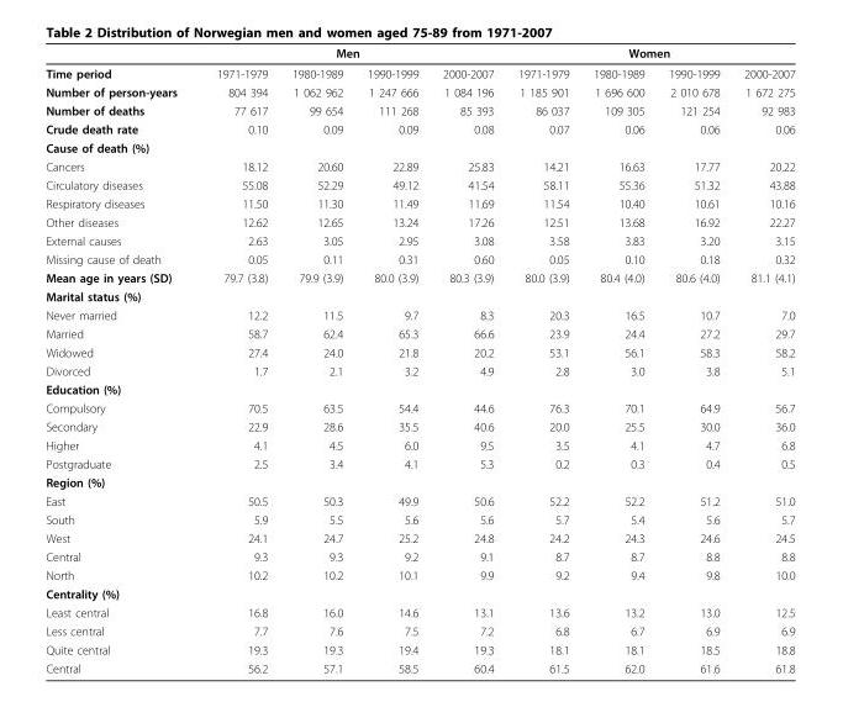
<table><thead><tr><td rowspan="2">Time period</td><td colspan="4">Men</td><td colspan="4">Women</td></tr><tr><td>1971-1979</td><td>1980-1989</td><td>1990-1999</td><td>2000-2007</td><td>1971-1979</td><td>1980-1989</td><td>1990-1999</td><td>2000-2007</td></tr></thead><tbody><tr><td>Number of person-years</td><td>804 394</td><td>1 062 962</td><td>1 247 666</td><td>1 084 196</td><td>1 185 901</td><td>1 696 600</td><td>2 010 678</td><td>1 672 275</td></tr><tr><td>Number of deaths</td><td>77 617</td><td>99 654</td><td>111 268</td><td>85 393</td><td>86 037</td><td>109 305</td><td>121 254</td><td>92 983</td></tr><tr><td>Crude death rate</td><td>0.10</td><td>0.09</td><td>0.09</td><td>0.08</td><td>0.07</td><td>0.06</td><td>0.06</td><td>0.06</td></tr><tr><td colspan="9">Cause of death (%)</td></tr><tr><td>Cancers</td><td>18.12</td><td>20.60</td><td>22.89</td><td>25.83</td><td>14.21</td><td>16.63</td><td>17.77</td><td>20.22</td></tr><tr><td>Circulatory diseases</td><td>55.08</td><td>52.29</td><td>49.12</td><td>41.54</td><td>58.11</td><td>55.36</td><td>51.32</td><td>43.88</td></tr><tr><td>Respiratory diseases</td><td>11.50</td><td>11.30</td><td>11.49</td><td>11.69</td><td>11.54</td><td>10.40</td><td>10.61</td><td>10.16</td></tr><tr><td>Other diseases</td><td>12.62</td><td>12.65</td><td>13.24</td><td>17.26</td><td>12.51</td><td>13.68</td><td>16.92</td><td>22.27</td></tr><tr><td>External causes</td><td>2.63</td><td>3.05</td><td>2.95</td><td>3.08</td><td>3.58</td><td>3.83</td><td>3.20</td><td>3.15</td></tr><tr><td>Missing cause of death</td><td>0.05</td><td>0.11</td><td>0.31</td><td>0.60</td><td>0.05</td><td>0.10</td><td>0.18</td><td>0.32</td></tr><tr><td>Mean age in years (SD)</td><td>79.7 (3.8)</td><td>79.9 (3.9)</td><td>80.0 (3.9)</td><td>80.3 (3.9)</td><td>80.0 (3.9)</td><td>80.4 (4.0)</td><td>80.6 (4.0)</td><td>81.1 (4.1)</td></tr><tr><td colspan="9">Marital status (%)</td></tr><tr><td>Never married</td><td>12.2</td><td>11.5</td><td>9.7</td><td>8.3</td><td>20.3</td><td>16.5</td><td>10.7</td><td>7.0</td></tr><tr><td>Married</td><td>58.7</td><td>62.4</td><td>65.3</td><td>66.6</td><td>23.9</td><td>24.4</td><td>27.2</td><td>29.7</td></tr><tr><td>Widowed</td><td>27.4</td><td>24.0</td><td>21.8</td><td>20.2</td><td>53.1</td><td>56.1</td><td>58.3</td><td>58.2</td></tr><tr><td>Divorced</td><td>1.7</td><td>2.1</td><td>3.2</td><td>4.9</td><td>2.8</td><td>3.0</td><td>3.8</td><td>5.1</td></tr><tr><td colspan="9">Education (%)</td></tr><tr><td>Compulsory</td><td>70.5</td><td>63.5</td><td>54.4</td><td>44.6</td><td>76.3</td><td>70.1</td><td>64.9</td><td>56.7</td></tr><tr><td>Secondary</td><td>22.9</td><td>28.6</td><td>35.5</td><td>40.6</td><td>20.0</td><td>25.5</td><td>30.0</td><td>36.0</td></tr><tr><td>Higher</td><td>4.1</td><td>4.5</td><td>6.0</td><td>9.5</td><td>3.5</td><td>4.1</td><td>4.7</td><td>6.8</td></tr><tr><td>Postgraduate</td><td>2.5</td><td>3.4</td><td>4.1</td><td>5.3</td><td>0.2</td><td>0.3</td><td>0.4</td><td>0.5</td></tr><tr><td colspan="9">Region (%)</td></tr><tr><td>East</td><td>50.5</td><td>50.3</td><td>49.9</td><td>50.6</td><td>52.2</td><td>52.2</td><td>51.2</td><td>51.0</td></tr><tr><td>South</td><td>5.9</td><td>5.5</td><td>5.6</td><td>5.6</td><td>5.7</td><td>5.4</td><td>5.6</td><td>5.7</td></tr><tr><td>West</td><td>24.1</td><td>24.7</td><td>25.2</td><td>24.8</td><td>24.2</td><td>24.3</td><td>24.6</td><td>24.5</td></tr><tr><td>Central</td><td>9.3</td><td>9.3</td><td>9.2</td><td>9.1</td><td>8.7</td><td>8.7</td><td>8.8</td><td>8.8</td></tr><tr><td>North</td><td>10.2</td><td>10.2</td><td>10.1</td><td>9.9</td><td>9.2</td><td>9.4</td><td>9.8</td><td>10.0</td></tr><tr><td colspan="9">Centrality (%)</td></tr><tr><td>Least central</td><td>16.8</td><td>16.0</td><td>14.6</td><td>13.1</td><td>13.6</td><td>13.2</td><td>13.0</td><td>12.5</td></tr><tr><td>Less central</td><td>7.7</td><td>7.6</td><td>7.5</td><td>7.2</td><td>6.8</td><td>6.7</td><td>6.9</td><td>6.9</td></tr><tr><td>Quite central</td><td>19.3</td><td>19.3</td><td>19.4</td><td>19.3</td><td>18.1</td><td>18.1</td><td>18.5</td><td>18.8</td></tr><tr><td>Central</td><td>56.2</td><td>57.1</td><td>58.5</td><td>60.4</td><td>61.5</td><td>62.0</td><td>61.6</td><td>61.8</td></tr></tbody></table>